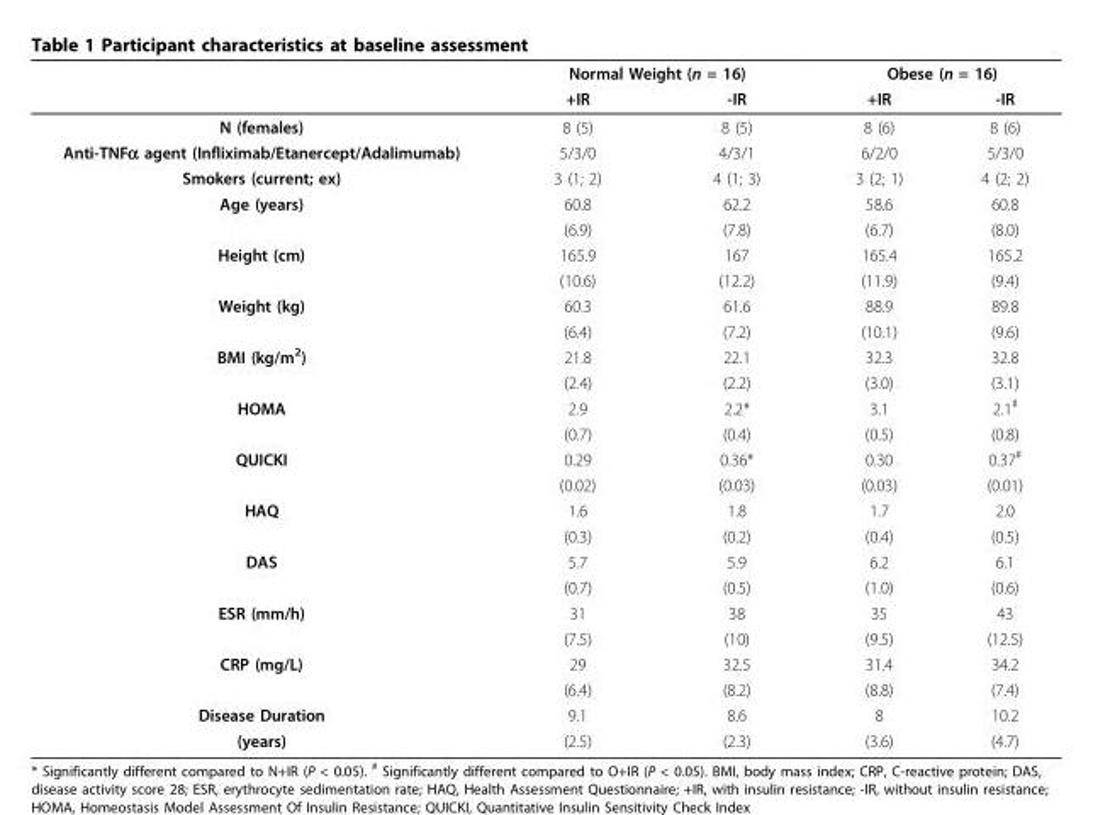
<table><thead><tr><td rowspan="2"></td><td colspan="2">Normal Weight (n = 16)</td><td colspan="2">Obese (n = 16)</td></tr><tr><td>+IR</td><td>-IR</td><td>+IR</td><td>-IR</td></tr></thead><tbody><tr><td>N (females)</td><td>8 (5)</td><td>8 (5)</td><td>8 (6)</td><td>8 (6)</td></tr><tr><td>Anti-TNFα agent (Infliximab/Etanercept/Adalimumab)</td><td>5/3/0</td><td>4/3/1</td><td>6/2/0</td><td>5/3/0</td></tr><tr><td>Smokers (current; ex)</td><td>3 (1; 2)</td><td>4 (1; 3)</td><td>3 (2; 1)</td><td>4 (2; 2)</td></tr><tr><td rowspan="2">Age (years)</td><td>60.8</td><td>62.2</td><td>58.6</td><td>60.8</td></tr><tr><td>(6.9)</td><td>(7.8)</td><td>(6.7)</td><td>(8.0)</td></tr><tr><td rowspan="2">Height (cm)</td><td>165.9</td><td>167</td><td>165.4</td><td>165.2</td></tr><tr><td>(10.6)</td><td>(12.2)</td><td>(11.9)</td><td>(9.4)</td></tr><tr><td rowspan="2">Weight (kg)</td><td>60.3</td><td>61.6</td><td>88.9</td><td>89.8</td></tr><tr><td>(6.4)</td><td>(7.2)</td><td>(10.1)</td><td>(9.6)</td></tr><tr><td rowspan="2">BMI (kg/m<sup>2</sup>)</td><td>21.8</td><td>22.1</td><td>32.3</td><td>32.8</td></tr><tr><td>(2.4)</td><td>(2.2)</td><td>(3.0)</td><td>(3.1)</td></tr><tr><td rowspan="2">HOMA</td><td>2.9</td><td>2.2*</td><td>3.1</td><td>2.1<sup>#</sup></td></tr><tr><td>(0.7)</td><td>(0.4)</td><td>(0.5)</td><td>(0.8)</td></tr><tr><td rowspan="2">QUICKI</td><td>0.29</td><td>0.36*</td><td>0.30</td><td>0.37<sup>#</sup></td></tr><tr><td>(0.02)</td><td>(0.03)</td><td>(0.03)</td><td>(0.01)</td></tr><tr><td rowspan="2">HAQ</td><td>1.6</td><td>1.8</td><td>1.7</td><td>2.0</td></tr><tr><td>(0.3)</td><td>(0.2)</td><td>(0.4)</td><td>(0.5)</td></tr><tr><td rowspan="2">DAS</td><td>5.7</td><td>5.9</td><td>6.2</td><td>6.1</td></tr><tr><td>(0.7)</td><td>(0.5)</td><td>(1.0)</td><td>(0.6)</td></tr><tr><td rowspan="2">ESR (mm/h)</td><td>31</td><td>38</td><td>35</td><td>43</td></tr><tr><td>(7.5)</td><td>(10)</td><td>(9.5)</td><td>(12.5)</td></tr><tr><td rowspan="2">CRP (mg/L)</td><td>29</td><td>32.5</td><td>31.4</td><td>34.2</td></tr><tr><td>(6.4)</td><td>(8.2)</td><td>(8.8)</td><td>(7.4)</td></tr><tr><td>Disease Duration</td><td>9.1</td><td>8.6</td><td>8</td><td>10.2</td></tr><tr><td>(years)</td><td>(2.5)</td><td>(2.3)</td><td>(3.6)</td><td>(4.7)</td></tr></tbody></table>